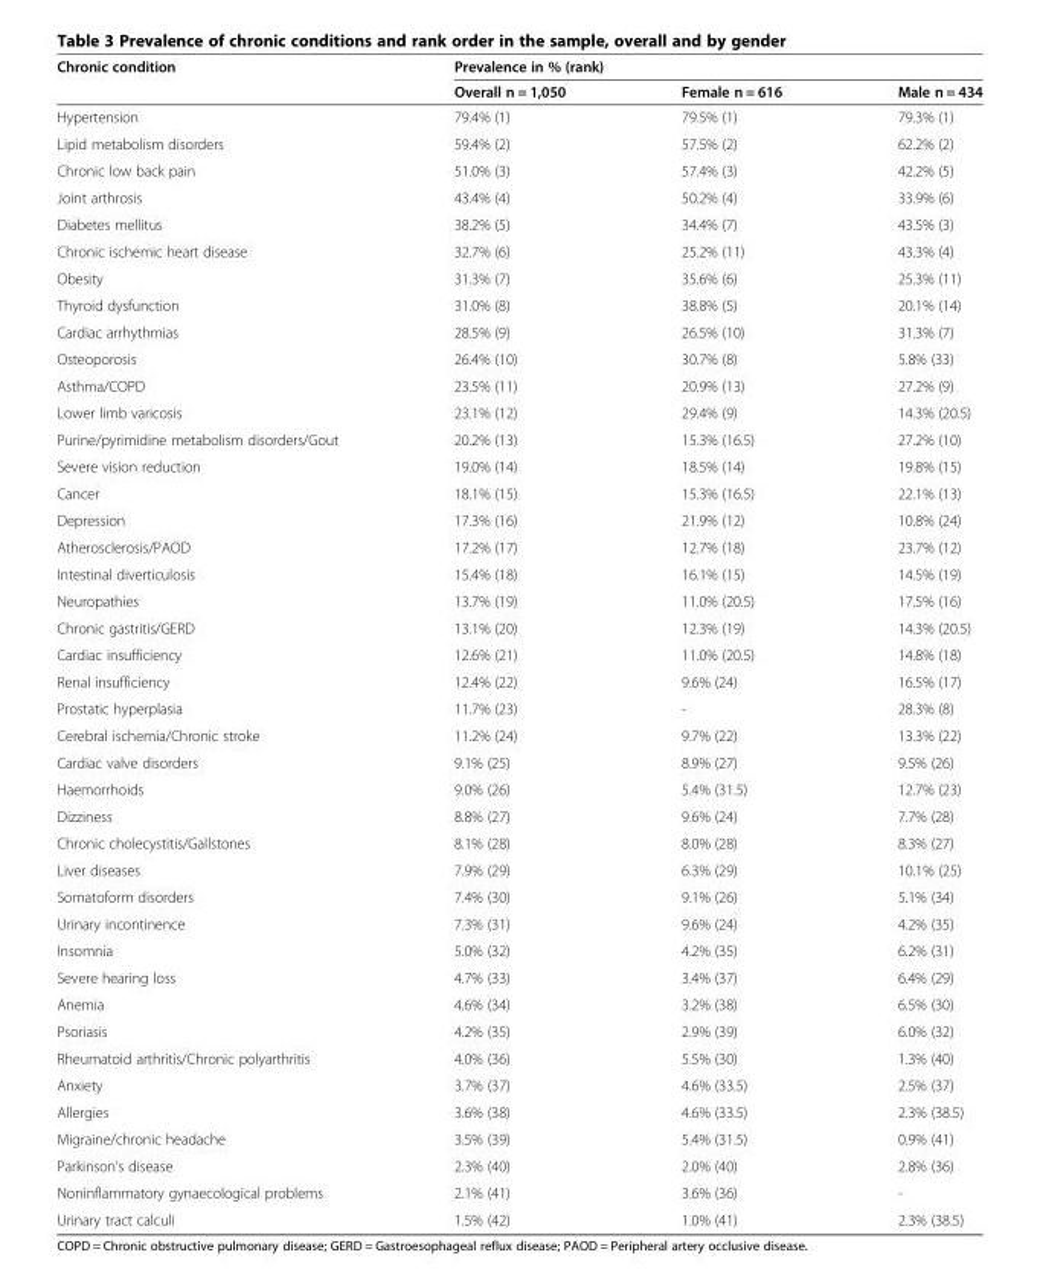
<table><thead><tr><td rowspan="2">Chronic condition</td><td colspan="3">Prevalence in % (rank)</td></tr><tr><td>Overall n = 1,050</td><td>Female n = 616</td><td>Male n = 434</td></tr></thead><tbody><tr><td>Hypertension</td><td>79.4% (1)</td><td>79.5% (1)</td><td>79.3% (1)</td></tr><tr><td>Lipid metabolism disorders</td><td>59.4% (2)</td><td>57.5% (2)</td><td>62.2% (2)</td></tr><tr><td>Chronic low back pain</td><td>51.0% (3)</td><td>57.4% (3)</td><td>42.2% (5)</td></tr><tr><td>Joint arthrosis</td><td>43.4% (4)</td><td>50.2% (4)</td><td>33.9% (6)</td></tr><tr><td>Diabetes mellitus</td><td>38.2% (5)</td><td>34.4% (7)</td><td>43.5% (3)</td></tr><tr><td>Chronic ischemic heart disease</td><td>32.7% (6)</td><td>25.2% (11)</td><td>43.3% (4)</td></tr><tr><td>Obesity</td><td>31.3% (7)</td><td>35.6% (6)</td><td>25.3% (11)</td></tr><tr><td>Thyroid dysfunction</td><td>31.0% (8)</td><td>38.8% (5)</td><td>20.1% (14)</td></tr><tr><td>Cardiac arrhythmias</td><td>28.5% (9)</td><td>26.5% (10)</td><td>31.3% (7)</td></tr><tr><td>Osteoporosis</td><td>26.4% (10)</td><td>30.7% (8)</td><td>5.8% (33)</td></tr><tr><td>Asthma/COPD</td><td>23.5% (11)</td><td>20.9% (13)</td><td>27.2% (9)</td></tr><tr><td>Lower limb varicosis</td><td>23.1% (12)</td><td>29.4% (9)</td><td>14.3% (20.5)</td></tr><tr><td>Purine/pyrimidine metabolism disorders/Gout</td><td>20.2% (13)</td><td>15.3% (16.5)</td><td>27.2% (10)</td></tr><tr><td>Severe vision reduction</td><td>19.0% (14)</td><td>18.5% (14)</td><td>19.8% (15)</td></tr><tr><td>Cancer</td><td>18.1% (15)</td><td>15.3% (16.5)</td><td>22.1% (13)</td></tr><tr><td>Depression</td><td>17.3% (16)</td><td>21.9% (12)</td><td>10.8% (24)</td></tr><tr><td>Atherosclerosis/PAOD</td><td>17.2% (17)</td><td>12.7% (18)</td><td>23.7% (12)</td></tr><tr><td>Intestinal diverticulosis</td><td>15.4% (18)</td><td>16.1% (15)</td><td>14.5% (19)</td></tr><tr><td>Neuropathies</td><td>13.7% (19)</td><td>11.0% (20.5)</td><td>17.5% (16)</td></tr><tr><td>Chronic gastritis/GERD</td><td>13.1% (20)</td><td>12.3% (19)</td><td>14.3% (20.5)</td></tr><tr><td>Cardiac insufficiency</td><td>12.6% (21)</td><td>11.0% (20.5)</td><td>14.8% (18)</td></tr><tr><td>Renal insufficiency</td><td>12.4% (22)</td><td>9.6% (24)</td><td>16.5% (17)</td></tr><tr><td>Prostatic hyperplasia</td><td>11.7% (23)</td><td>-</td><td>28.3% (8)</td></tr><tr><td>Cerebral ischemia/Chronic stroke</td><td>11.2% (24)</td><td>9.7% (22)</td><td>13.3% (22)</td></tr><tr><td>Cardiac valve disorders</td><td>9.1% (25)</td><td>8.9% (27)</td><td>9.5% (26)</td></tr><tr><td>Haemorrhoids</td><td>9.0% (26)</td><td>5.4% (31.5)</td><td>12.7% (23)</td></tr><tr><td>Dizziness</td><td>8.8% (27)</td><td>9.6% (24)</td><td>7.7% (28)</td></tr><tr><td>Chronic cholecystitis/Gallstones</td><td>8.1% (28)</td><td>8.0% (28)</td><td>8.3% (27)</td></tr><tr><td>Liver diseases</td><td>7.9% (29)</td><td>6.3% (29)</td><td>10.1% (25)</td></tr><tr><td>Somatoform disorders</td><td>7.4% (30)</td><td>9.1% (26)</td><td>5.1% (34)</td></tr><tr><td>Urinary incontinence</td><td>7.3% (31)</td><td>9.6% (24)</td><td>4.2% (35)</td></tr><tr><td>Insomnia</td><td>5.0% (32)</td><td>4.2% (35)</td><td>6.2% (31)</td></tr><tr><td>Severe hearing loss</td><td>4.7% (33)</td><td>3.4% (37)</td><td>6.4% (29)</td></tr><tr><td>Anemia</td><td>4.6% (34)</td><td>3.2% (38)</td><td>6.5% (30)</td></tr><tr><td>Psoriasis</td><td>4.2% (35)</td><td>2.9% (39)</td><td>6.0% (32)</td></tr><tr><td>Rheumatoid arthritis/Chronic polyarthritis</td><td>4.0% (36)</td><td>5.5% (30)</td><td>1.3% (40)</td></tr><tr><td>Anxiety</td><td>3.7% (37)</td><td>4.6% (33.5)</td><td>2.5% (37)</td></tr><tr><td>Allergies</td><td>3.6% (38)</td><td>4.6% (33.5)</td><td>2.3% (38.5)</td></tr><tr><td>Migraine/chronic headache</td><td>3.5% (39)</td><td>5.4% (31.5)</td><td>0.9% (41)</td></tr><tr><td>Parkinson’s disease</td><td>2.3% (40)</td><td>2.0% (40)</td><td>2.8% (36)</td></tr><tr><td>Noninflammatory gynaecological problems</td><td>2.1% (41)</td><td>3.6% (36)</td><td>-</td></tr><tr><td>Urinary tract calculi</td><td>1.5% (42)</td><td>1.0% (41)</td><td>2.3% (38.5)</td></tr></tbody></table>